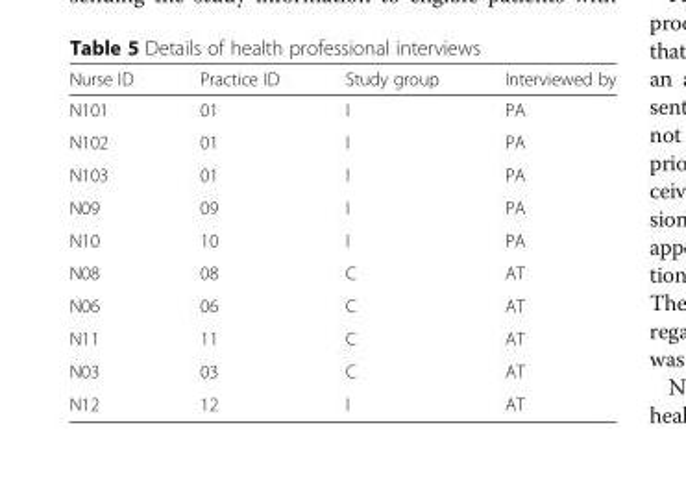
<table><thead><tr><td>Nurse ID</td><td>Practice ID</td><td>Study group</td><td>Interviewed by</td></tr></thead><tbody><tr><td>N101</td><td>01</td><td>I</td><td>PA</td></tr><tr><td>N102</td><td>01</td><td>I</td><td>PA</td></tr><tr><td>N103</td><td>01</td><td>I</td><td>PA</td></tr><tr><td>N09</td><td>09</td><td>I</td><td>PA</td></tr><tr><td>N10</td><td>10</td><td>I</td><td>PA</td></tr><tr><td>N08</td><td>08</td><td>C</td><td>AT</td></tr><tr><td>N06</td><td>06</td><td>C</td><td>AT</td></tr><tr><td>N11</td><td>11</td><td>C</td><td>AT</td></tr><tr><td>N03</td><td>03</td><td>C</td><td>AT</td></tr><tr><td>N12</td><td>12</td><td>I</td><td>AT</td></tr></tbody></table>